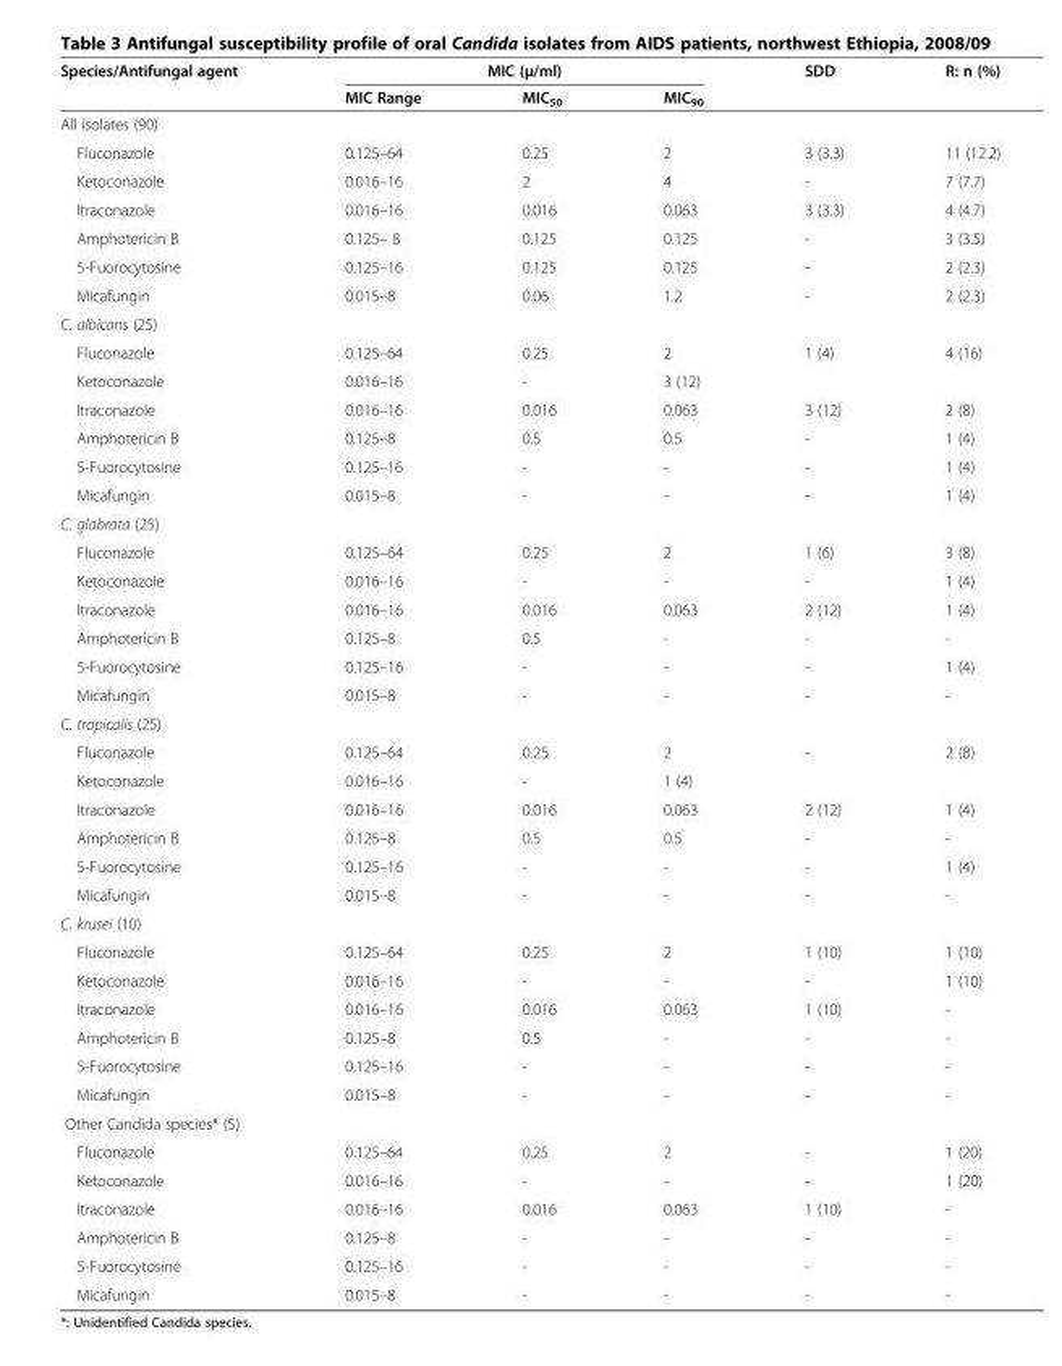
<table><thead><tr><td rowspan="2">Species/Antifungal agent</td><td colspan="3">MIC (μ/ml)</td><td rowspan="2">SDD</td><td rowspan="2">R: n (%)</td></tr><tr><td>MIC Range</td><td>MIC<sub>50</sub></td><td>MIC<sub>90</sub></td></tr></thead><tbody><tr><td colspan="6">All isolates (90)</td></tr><tr><td>Fluconazole</td><td>0.125–64</td><td>0.25</td><td>2</td><td>3 (3.3)</td><td>11 (12.2)</td></tr><tr><td>Ketoconazole</td><td>0.016–16</td><td>2</td><td>4</td><td>-</td><td>7 (7.7)</td></tr><tr><td>Itraconazole</td><td>0.016–16</td><td>0.016</td><td>0.063</td><td>3 (3.3)</td><td>4 (4.7)</td></tr><tr><td>Amphotericin B</td><td>0.125– 8</td><td>0.125</td><td>0.125</td><td>-</td><td>3 (3.5)</td></tr><tr><td>5-Fuorocytosine</td><td>0.125–16</td><td>0.125</td><td>0.125</td><td>-</td><td>2 (2.3)</td></tr><tr><td>Micafungin</td><td>0.015–8</td><td>0.06</td><td>1.2</td><td>-</td><td>2 (2.3)</td></tr><tr><td colspan="6">C. albicans (25)</td></tr><tr><td>Fluconazole</td><td>0.125–64</td><td>0.25</td><td>2</td><td>1 (4)</td><td>4 (16)</td></tr><tr><td>Ketoconazole</td><td>0.016–16</td><td>-</td><td>3 (12)</td><td></td><td></td></tr><tr><td>Itraconazole</td><td>0.016–16</td><td>0.016</td><td>0.063</td><td>3 (12)</td><td>2 (8)</td></tr><tr><td>Amphotericin B</td><td>0.125–8</td><td>0.5</td><td>0.5</td><td>-</td><td>1 (4)</td></tr><tr><td>5-Fuorocytosine</td><td>0.125–16</td><td>-</td><td>-</td><td>-</td><td>1 (4)</td></tr><tr><td>Micafungin</td><td>0.015–8</td><td>-</td><td>-</td><td>-</td><td>1 (4)</td></tr><tr><td colspan="6">C. glabrata (25)</td></tr><tr><td>Fluconazole</td><td>0.125–64</td><td>0.25</td><td>2</td><td>1 (6)</td><td>3 (8)</td></tr><tr><td>Ketoconazole</td><td>0.016–16</td><td>-</td><td>-</td><td>-</td><td>1 (4)</td></tr><tr><td>Itraconazole</td><td>0.016–16</td><td>0.016</td><td>0.063</td><td>2 (12)</td><td>1 (4)</td></tr><tr><td>Amphotericin B</td><td>0.125–8</td><td>0.5</td><td>-</td><td>-</td><td>-</td></tr><tr><td>5-Fuorocytosine</td><td>0.125–16</td><td>-</td><td>-</td><td>-</td><td>1 (4)</td></tr><tr><td>Micafungin</td><td>0.015–8</td><td>-</td><td>-</td><td>-</td><td>-</td></tr><tr><td colspan="6">C. tropicalis (25)</td></tr><tr><td>Fluconazole</td><td>0.125–64</td><td>0.25</td><td>2</td><td>-</td><td>2 (8)</td></tr><tr><td>Ketoconazole</td><td>0.016–16</td><td>-</td><td>1 (4)</td><td></td><td></td></tr><tr><td>Itraconazole</td><td>0.016–16</td><td>0.016</td><td>0.063</td><td>2 (12)</td><td>1 (4)</td></tr><tr><td>Amphotericin B</td><td>0.125–8</td><td>0.5</td><td>0.5</td><td>-</td><td>-</td></tr><tr><td>5-Fuorocytosine</td><td>0.125–16</td><td>-</td><td>-</td><td>-</td><td>1 (4)</td></tr><tr><td>Micafungin</td><td>0.015–8</td><td>-</td><td>-</td><td>-</td><td>-</td></tr><tr><td colspan="6">C. krusei (10)</td></tr><tr><td>Fluconazole</td><td>0.125–64</td><td>0.25</td><td>2</td><td>1 (10)</td><td>1 (10)</td></tr><tr><td>Ketoconazole</td><td>0.016–16</td><td>-</td><td>-</td><td>-</td><td>1 (10)</td></tr><tr><td>Itraconazole</td><td>0.016–16</td><td>0.016</td><td>0.063</td><td>1 (10)</td><td>-</td></tr><tr><td>Amphotericin B</td><td>0.125–8</td><td>0.5</td><td>-</td><td>-</td><td>-</td></tr><tr><td>5-Fuorocytosine</td><td>0.125–16</td><td>-</td><td>-</td><td>-</td><td>-</td></tr><tr><td>Micafungin</td><td>0.015–8</td><td>-</td><td>-</td><td>-</td><td>-</td></tr><tr><td colspan="6">Other Candida species* (5)</td></tr><tr><td>Fluconazole</td><td>0.125–64</td><td>0.25</td><td>2</td><td>-</td><td>1 (20)</td></tr><tr><td>Ketoconazole</td><td>0.016–16</td><td>-</td><td>-</td><td>-</td><td>1 (20)</td></tr><tr><td>Itraconazole</td><td>0.016–16</td><td>0.016</td><td>0.063</td><td>1 (10)</td><td>-</td></tr><tr><td>Amphotericin B</td><td>0.125–8</td><td>-</td><td>-</td><td>-</td><td>-</td></tr><tr><td>5-Fuorocytosine</td><td>0.125–16</td><td>-</td><td>-</td><td>-</td><td>-</td></tr><tr><td>Micafungin</td><td>0.015–8</td><td>-</td><td>-</td><td>-</td><td>-</td></tr></tbody></table>